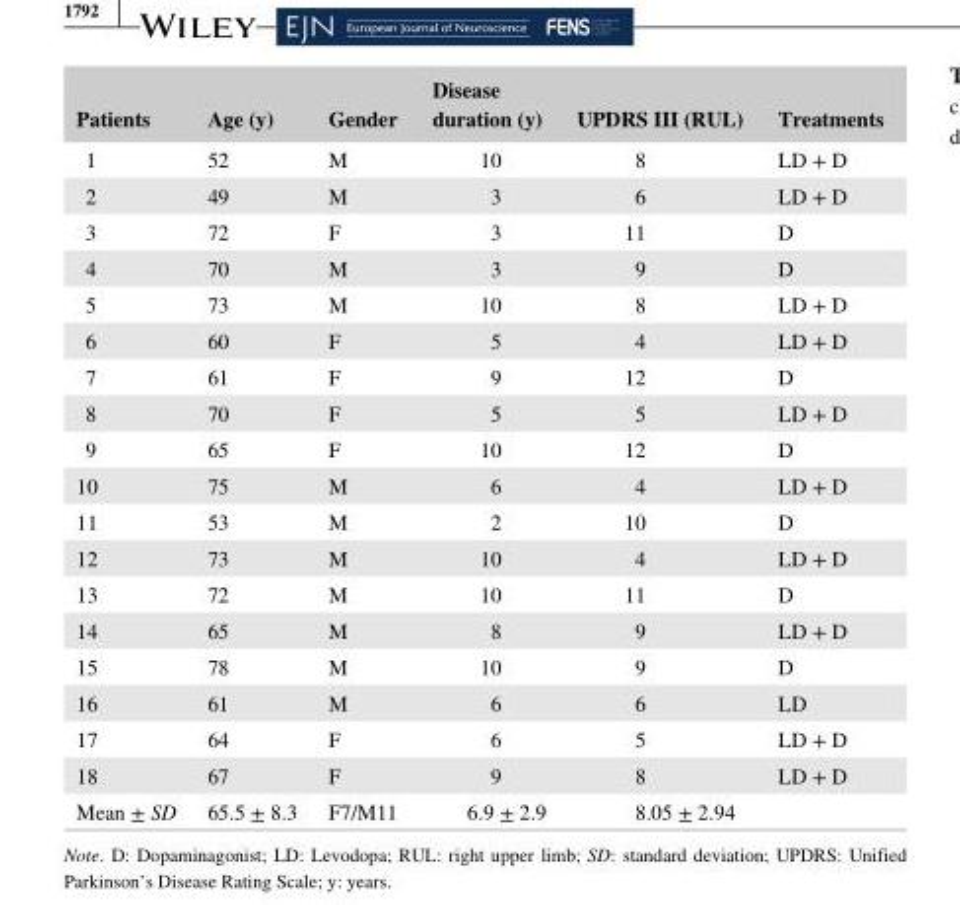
<table><thead><tr><td>Patients</td><td>Age (y)</td><td>Gender</td><td>Disease duration (y)</td><td>UPDRS III (RUL)</td><td>Treatments</td></tr></thead><tbody><tr><td>1</td><td>52</td><td>M</td><td>10</td><td>8</td><td>LD + D</td></tr><tr><td>2</td><td>49</td><td>M</td><td>3</td><td>6</td><td>LD + D</td></tr><tr><td>3</td><td>72</td><td>F</td><td>3</td><td>11</td><td>D</td></tr><tr><td>4</td><td>70</td><td>M</td><td>3</td><td>9</td><td>D</td></tr><tr><td>5</td><td>73</td><td>M</td><td>10</td><td>8</td><td>LD + D</td></tr><tr><td>6</td><td>60</td><td>F</td><td>5</td><td>4</td><td>LD + D</td></tr><tr><td>7</td><td>61</td><td>F</td><td>9</td><td>12</td><td>D</td></tr><tr><td>8</td><td>70</td><td>F</td><td>5</td><td>5</td><td>LD + D</td></tr><tr><td>9</td><td>65</td><td>F</td><td>10</td><td>12</td><td>D</td></tr><tr><td>10</td><td>75</td><td>M</td><td>6</td><td>4</td><td>LD + D</td></tr><tr><td>11</td><td>53</td><td>M</td><td>2</td><td>10</td><td>D</td></tr><tr><td>12</td><td>73</td><td>M</td><td>10</td><td>4</td><td>LD + D</td></tr><tr><td>13</td><td>72</td><td>M</td><td>10</td><td>11</td><td>D</td></tr><tr><td>14</td><td>65</td><td>M</td><td>8</td><td>9</td><td>LD + D</td></tr><tr><td>15</td><td>78</td><td>M</td><td>10</td><td>9</td><td>D</td></tr><tr><td>16</td><td>61</td><td>M</td><td>6</td><td>6</td><td>LD</td></tr><tr><td>17</td><td>64</td><td>F</td><td>6</td><td>5</td><td>LD + D</td></tr><tr><td>18</td><td>67</td><td>F</td><td>9</td><td>8</td><td>LD + D</td></tr><tr><td>Mean ± SD</td><td>65.5 ± 8.3</td><td>F7/M11</td><td>6.9 ± 2.9</td><td>8.05 ± 2.94</td><td></td></tr></tbody></table>